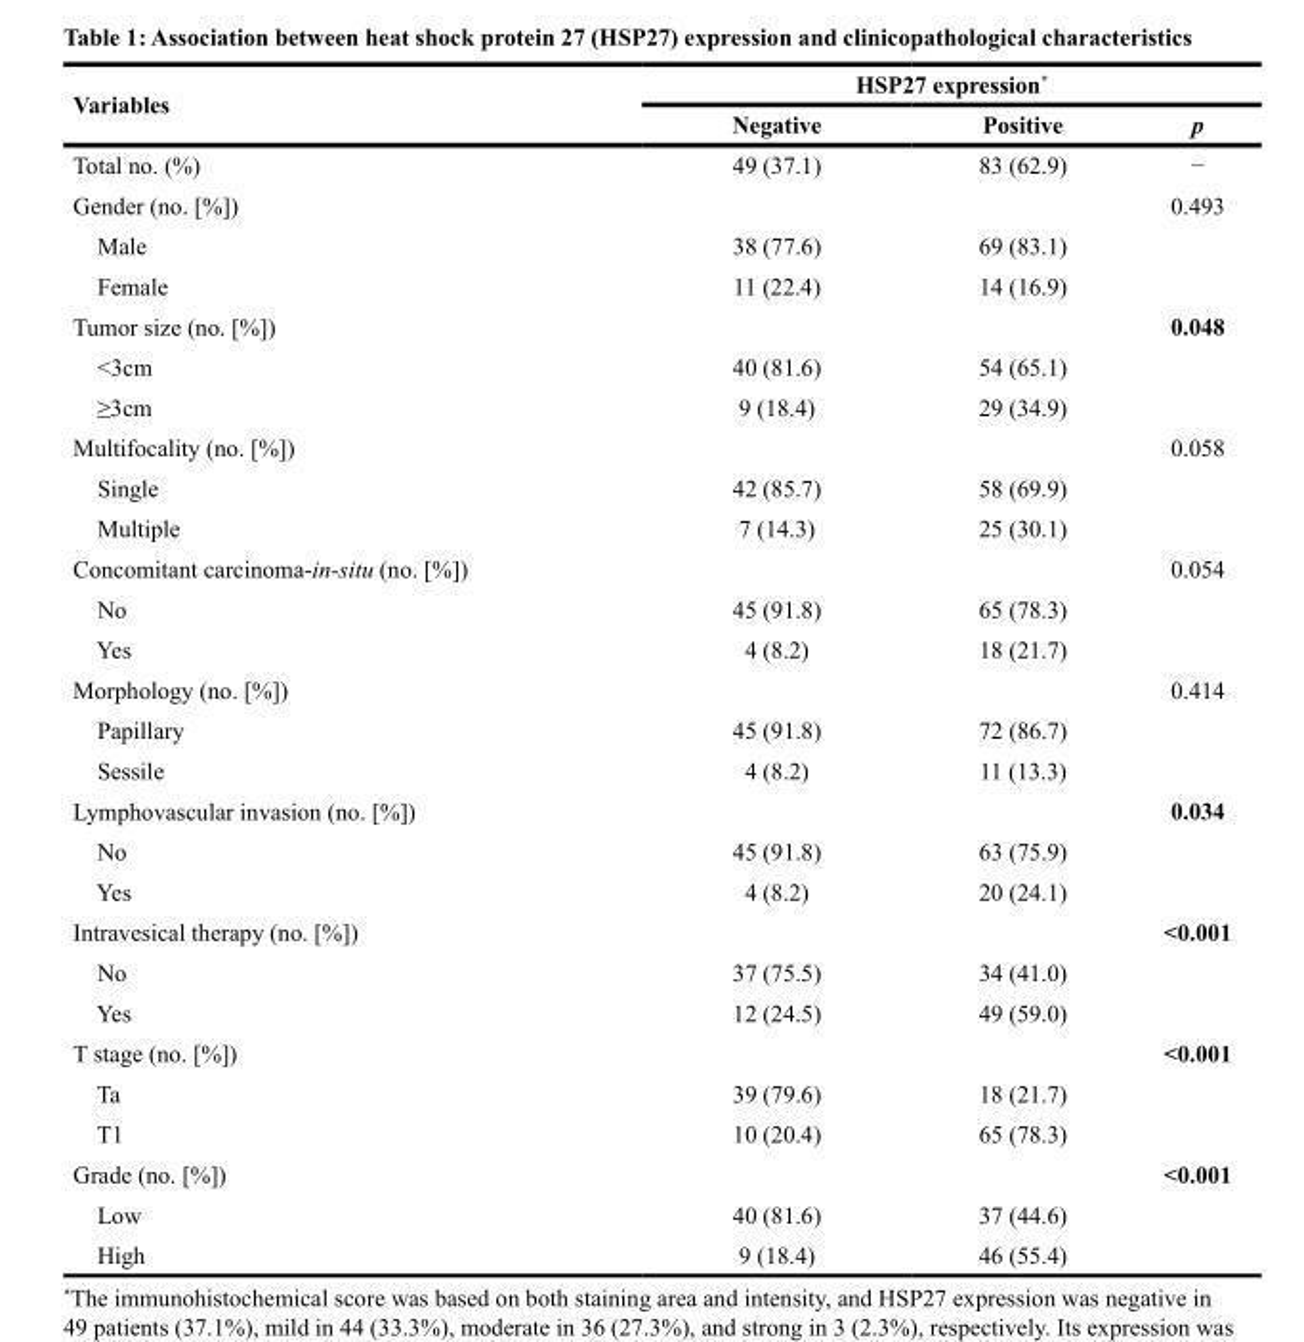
<table><thead><tr><td rowspan="2">Variables</td><td colspan="3">HSP27 expression*</td></tr><tr><td>Negative</td><td>Positive</td><td>p</td></tr></thead><tbody><tr><td>Total no. (%)</td><td>49 (37.1)</td><td>83 (62.9)</td><td>−</td></tr><tr><td>Gender (no. [%])</td><td></td><td></td><td>0.493</td></tr><tr><td>Male</td><td>38 (77.6)</td><td>69 (83.1)</td><td></td></tr><tr><td>Female</td><td>11 (22.4)</td><td>14 (16.9)</td><td></td></tr><tr><td>Tumor size (no. [%])</td><td></td><td></td><td>0.048</td></tr><tr><td>&lt;3cm</td><td>40 (81.6)</td><td>54 (65.1)</td><td></td></tr><tr><td>≥3cm</td><td>9 (18.4)</td><td>29 (34.9)</td><td></td></tr><tr><td>Multifocality (no. [%])</td><td></td><td></td><td>0.058</td></tr><tr><td>Single</td><td>42 (85.7)</td><td>58 (69.9)</td><td></td></tr><tr><td>Multiple</td><td>7 (14.3)</td><td>25 (30.1)</td><td></td></tr><tr><td>Concomitant carcinoma-in-situ (no. [%])</td><td></td><td></td><td>0.054</td></tr><tr><td>No</td><td>45 (91.8)</td><td>65 (78.3)</td><td></td></tr><tr><td>Yes</td><td>4 (8.2)</td><td>18 (21.7)</td><td></td></tr><tr><td>Morphology (no. [%])</td><td></td><td></td><td>0.414</td></tr><tr><td>Papillary</td><td>45 (91.8)</td><td>72 (86.7)</td><td></td></tr><tr><td>Sessile</td><td>4 (8.2)</td><td>11 (13.3)</td><td></td></tr><tr><td>Lymphovascular invasion (no. [%])</td><td></td><td></td><td>0.034</td></tr><tr><td>No</td><td>45 (91.8)</td><td>63 (75.9)</td><td></td></tr><tr><td>Yes</td><td>4 (8.2)</td><td>20 (24.1)</td><td></td></tr><tr><td>Intravesical therapy (no. [%])</td><td></td><td></td><td>&lt;0.001</td></tr><tr><td>No</td><td>37 (75.5)</td><td>34 (41.0)</td><td></td></tr><tr><td>Yes</td><td>12 (24.5)</td><td>49 (59.0)</td><td></td></tr><tr><td>T stage (no. [%])</td><td></td><td></td><td>&lt;0.001</td></tr><tr><td>Ta</td><td>39 (79.6)</td><td>18 (21.7)</td><td></td></tr><tr><td>T1</td><td>10 (20.4)</td><td>65 (78.3)</td><td></td></tr><tr><td>Grade (no. [%])</td><td></td><td></td><td>&lt;0.001</td></tr><tr><td>Low</td><td>40 (81.6)</td><td>37 (44.6)</td><td></td></tr><tr><td>High</td><td>9 (18.4)</td><td>46 (55.4)</td><td></td></tr></tbody></table>